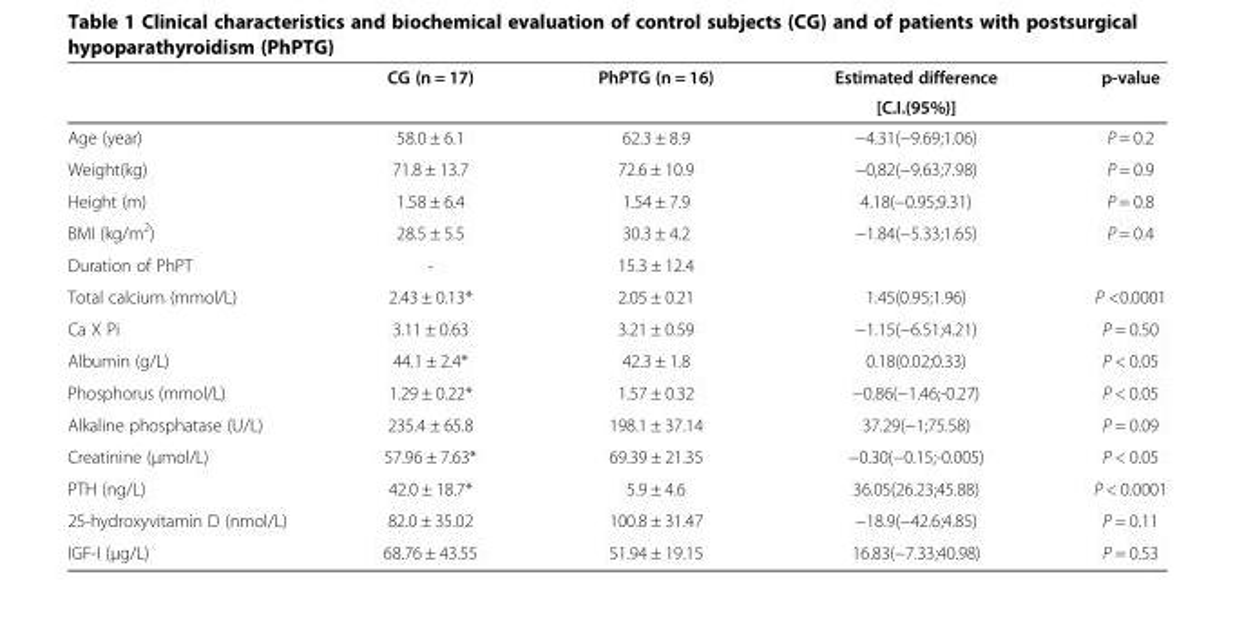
<table><thead><tr><td rowspan="2"></td><td rowspan="2">CG (n = 17)</td><td rowspan="2">PhPTG (n = 16)</td><td rowspan="2">Estimated difference [C.I.(95%)]</td><td rowspan="2">p-value</td></tr><tr></tr></thead><tbody><tr><td>Age (year)</td><td>58.0 ± 6.1</td><td>62.3 ± 8.9</td><td>−4.31(−9.69;1.06)</td><td>P = 0.2</td></tr><tr><td>Weight(kg)</td><td>71.8 ± 13.7</td><td>72.6 ± 10.9</td><td>−0,82(−9.63;7.98)</td><td>P = 0.9</td></tr><tr><td>Height (m)</td><td>1.58 ± 6.4</td><td>1.54 ± 7.9</td><td>4.18(−0.95;9.31)</td><td>P = 0.8</td></tr><tr><td>BMI (kg/m<sup>2</sup>)</td><td>28.5 ± 5.5</td><td>30.3 ± 4.2</td><td>−1.84(−5.33;1.65)</td><td>P = 0.4</td></tr><tr><td>Duration of PhPT</td><td>-</td><td>15.3 ± 12.4</td><td></td><td></td></tr><tr><td>Total calcium (mmol/L)</td><td>2.43 ± 0.13*</td><td>2.05 ± 0.21</td><td>1.45(0.95;1.96)</td><td>P &lt;0.0001</td></tr><tr><td>Ca X Pi</td><td>3.11 ± 0.63</td><td>3.21 ± 0.59</td><td>−1.15(−6.51;4.21)</td><td>P = 0.50</td></tr><tr><td>Albumin (g/L)</td><td>44.1 ± 2.4*</td><td>42.3 ± 1.8</td><td>0.18(0.02;0.33)</td><td>P &lt; 0.05</td></tr><tr><td>Phosphorus (mmol/L)</td><td>1.29 ± 0.22*</td><td>1.57 ± 0.32</td><td>−0.86(−1.46;-0.27)</td><td>P &lt; 0.05</td></tr><tr><td>Alkaline phosphatase (U/L)</td><td>235.4 ± 65.8</td><td>198.1 ± 37.14</td><td>37.29(−1;75.58)</td><td>P = 0.09</td></tr><tr><td>Creatinine (μmol/L)</td><td>57.96 ± 7.63*</td><td>69.39 ± 21.35</td><td>−0.30(−0.15;-0.005)</td><td>P &lt; 0.05</td></tr><tr><td>PTH (ng/L)</td><td>42.0 ± 18.7*</td><td>5.9 ± 4.6</td><td>36.05(26.23;45.88)</td><td>P &lt; 0.0001</td></tr><tr><td>25-hydroxyvitamin D (nmol/L)</td><td>82.0 ± 35.02</td><td>100.8 ± 31.47</td><td>−18.9(−42.6;4.85)</td><td>P = 0.11</td></tr><tr><td>IGF-I (μg/L)</td><td>68.76 ± 43.55</td><td>51.94 ± 19.15</td><td>16.83(−7.33;40.98)</td><td>P = 0.53</td></tr></tbody></table>